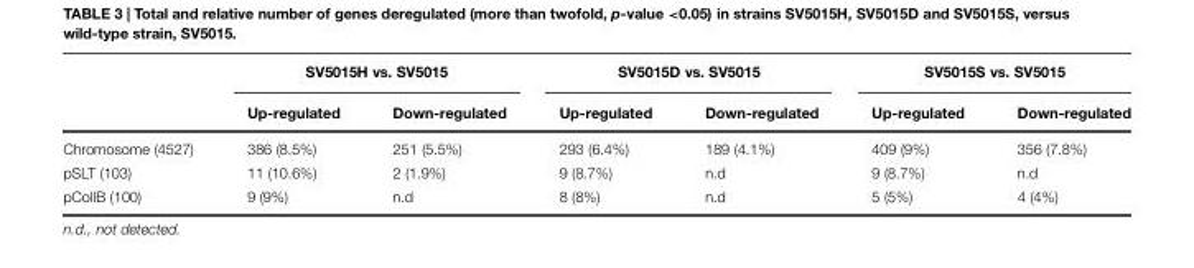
<table><thead><tr><td rowspan="2"></td><td colspan="2">SV5015H vs. SV5015</td><td colspan="2">SV5015D vs. SV5015</td><td colspan="2">SV5015S vs. SV5015</td></tr><tr><td>Up-regulated</td><td>Down-regulated</td><td>Up-regulated</td><td>Down-regulated</td><td>Up-regulated</td><td>Down-regulated</td></tr></thead><tbody><tr><td>Chromosome (4527)</td><td>386 (8.5%)</td><td>251 (5.5%)</td><td>293 (6.4%)</td><td>189 (4.1%)</td><td>409 (9%)</td><td>356 (7.8%)</td></tr><tr><td>pSLT (103)</td><td>11 (10.6%)</td><td>2 (1.9%)</td><td>9 (8.7%)</td><td>n.d</td><td>9 (8.7%)</td><td>n.d</td></tr><tr><td>pCollB (100)</td><td>9 (9%)</td><td>n.d</td><td>8 (8%)</td><td>n.d</td><td>5 (5%)</td><td>4 (4%)</td></tr></tbody></table>